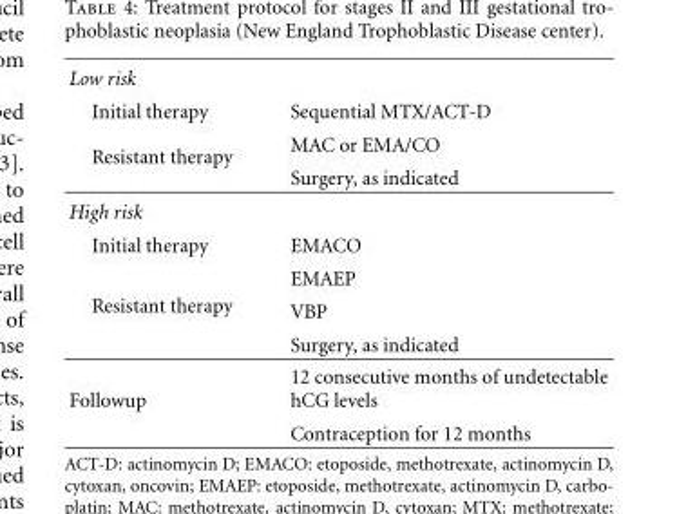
<table><tbody><tr><td colspan="2">Low risk</td></tr><tr><td>Initial therapy</td><td>Sequential MTX/ACT-D</td></tr><tr><td rowspan="2">Resistant therapy</td><td>MAC or EMA/CO</td></tr><tr><td>Surgery, as indicated</td></tr><tr><td colspan="2">High risk</td></tr><tr><td>Initial therapy</td><td>EMACO</td></tr><tr><td rowspan="3">Resistant therapy</td><td>EMAEP</td></tr><tr><td>VBP</td></tr><tr><td>Surgery, as indicated</td></tr><tr><td rowspan="2">Followup</td><td>12 consecutive months of undetectable hCG levels</td></tr><tr><td>Contraception for 12 months</td></tr></tbody></table>